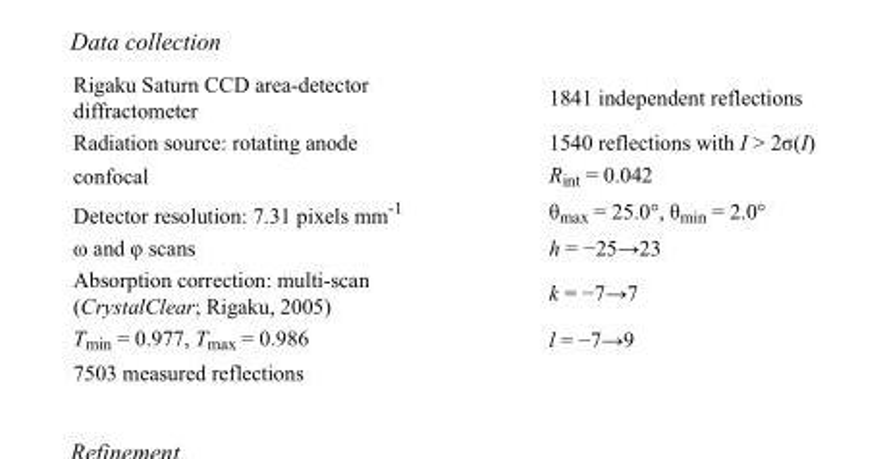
<table><tbody><tr><td>Rigaku Saturn CCD area-detector diffractometer</td><td>1841 independent reflections</td></tr><tr><td>Radiation source: rotating anode</td><td>1540 reflections with I &gt; 2σ(I)</td></tr><tr><td>confocal</td><td>R<sub>int</sub> = 0.042</td></tr><tr><td>Detector resolution: 7.31 pixels mm<sup>-1</sup></td><td>θ<sub>max</sub> = 25.0°, θ<sub>min</sub> = 2.0°</td></tr><tr><td>ω and φ scans</td><td>h = −25→23</td></tr><tr><td>Absorption correction: multi-scan (CrystalClear; Rigaku, 2005)</td><td>k = −7→7</td></tr><tr><td>T<sub>min</sub> = 0.977, T<sub>max</sub> = 0.986</td><td>l = −7→9</td></tr><tr><td>7503 measured reflections</td><td></td></tr></tbody></table>